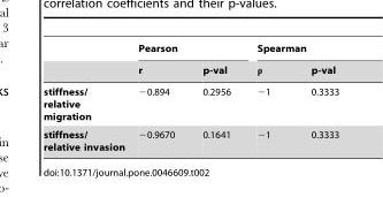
<table><thead><tr><td rowspan="2"></td><td colspan="2">Pearson</td><td colspan="2">Spearman</td></tr><tr><td>r</td><td>p-val</td><td>ρ</td><td>p-val</td></tr></thead><tbody><tr><td>stiffness/ relative migration</td><td>−0.894</td><td>0.2956</td><td>−1</td><td>0.3333</td></tr><tr><td>stiffness/ relative invasion</td><td>−0.9670</td><td>0.1641</td><td>−1</td><td>0.3333</td></tr></tbody></table>